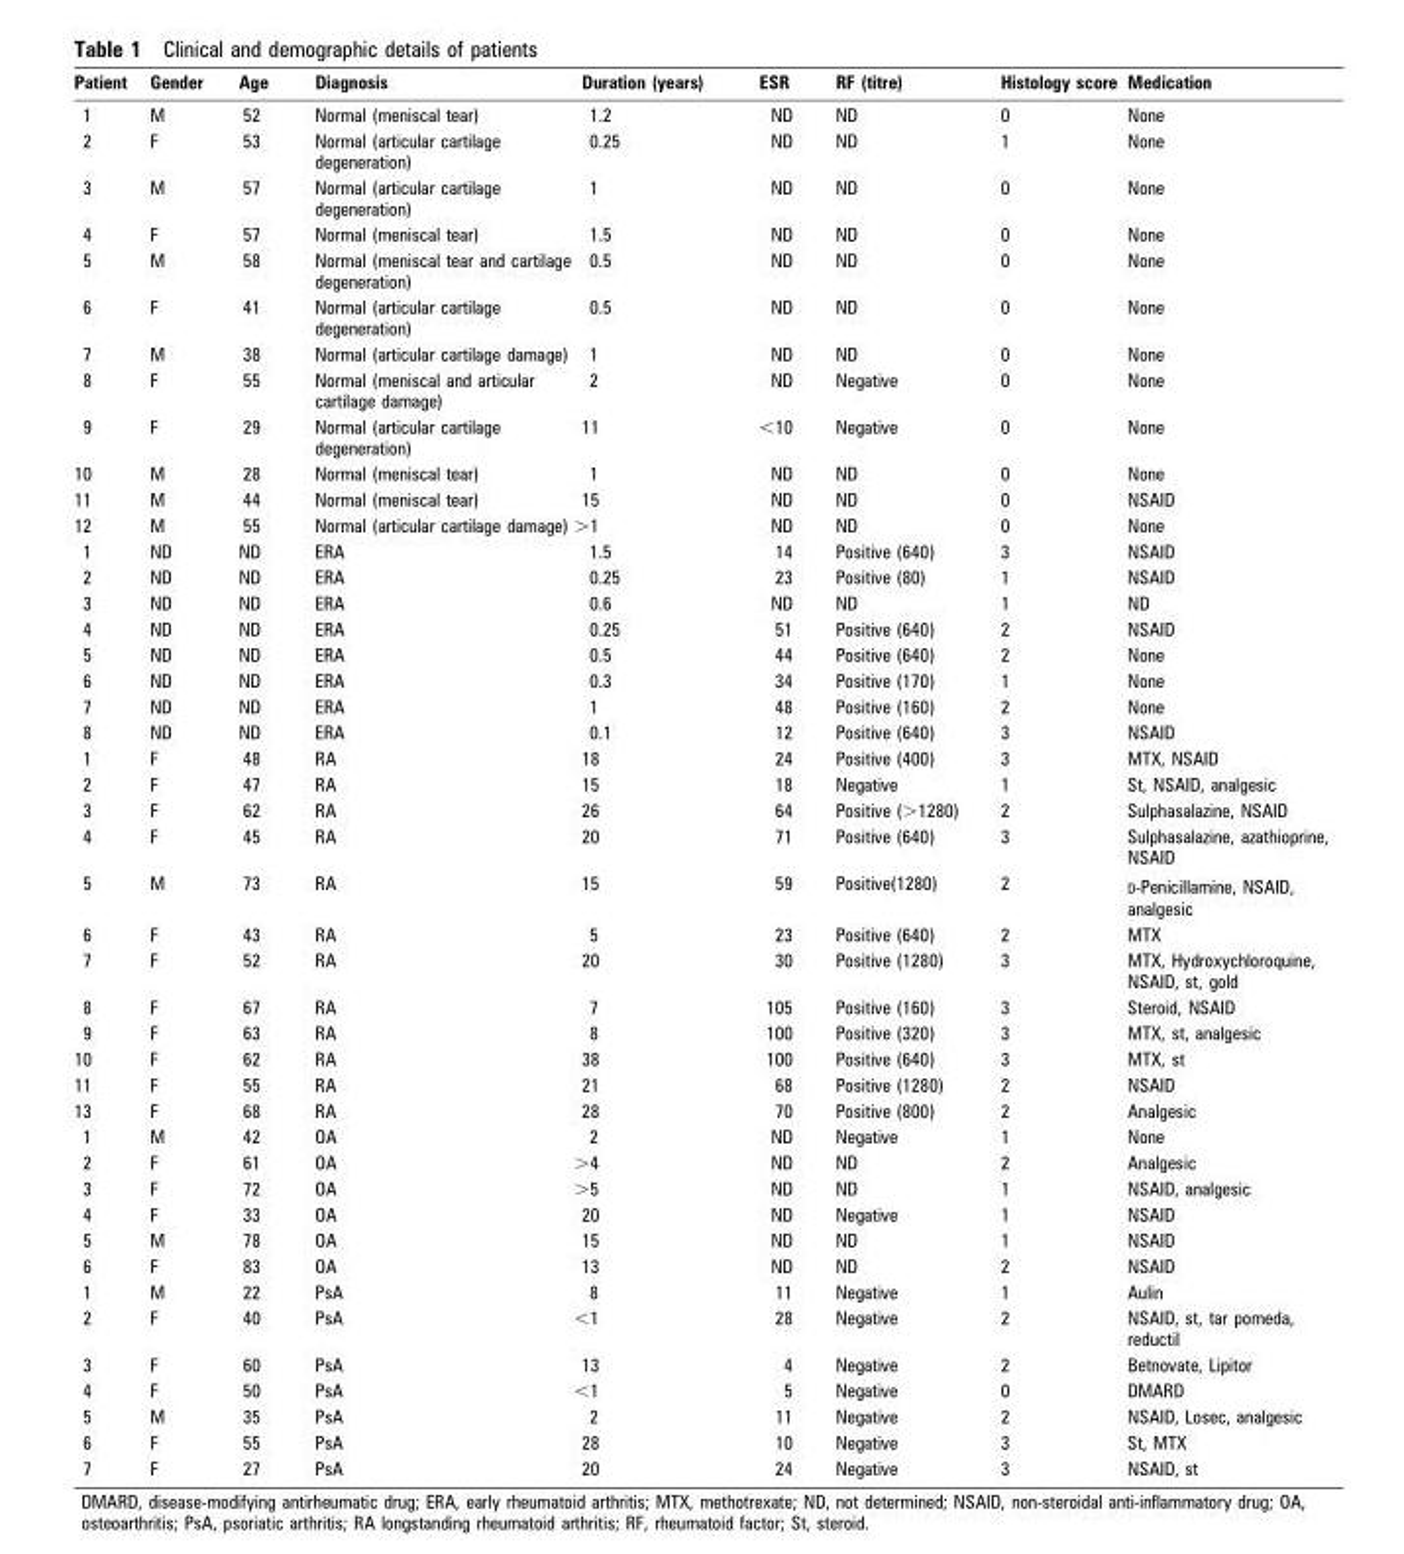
<table><thead><tr><td>Patient</td><td>Gender</td><td>Age</td><td>Diagnosis</td><td>Duration (years)</td><td>ESR</td><td>RF (titre)</td><td>Histology score</td><td>Medication</td></tr></thead><tbody><tr><td>1</td><td>M</td><td>52</td><td>Normal (meniscal tear)</td><td>1.2</td><td>ND</td><td>ND</td><td>0</td><td>None</td></tr><tr><td>2</td><td>F</td><td>53</td><td>Normal (articular cartilage degeneration)</td><td>0.25</td><td>ND</td><td>ND</td><td>1</td><td>None</td></tr><tr><td>3</td><td>M</td><td>57</td><td>Normal (articular cartilage degeneration)</td><td>1</td><td>ND</td><td>ND</td><td>0</td><td>None</td></tr><tr><td>4</td><td>F</td><td>57</td><td>Normal (meniscal tear)</td><td>1.5</td><td>ND</td><td>ND</td><td>0</td><td>None</td></tr><tr><td>5</td><td>M</td><td>58</td><td>Normal (meniscal tear and cartilage degeneration)</td><td>0.5</td><td>ND</td><td>ND</td><td>0</td><td>None</td></tr><tr><td>6</td><td>F</td><td>41</td><td>Normal (articular cartilage degeneration)</td><td>0.5</td><td>ND</td><td>ND</td><td>0</td><td>None</td></tr><tr><td>7</td><td>M</td><td>38</td><td>Normal (articular cartilage damage)</td><td>1</td><td>ND</td><td>ND</td><td>0</td><td>None</td></tr><tr><td>8</td><td>F</td><td>55</td><td>Normal (meniscal and articular cartilage damage)</td><td>2</td><td>ND</td><td>Negative</td><td>0</td><td>None</td></tr><tr><td>9</td><td>F</td><td>29</td><td>Normal (articular cartilage degeneration)</td><td>11</td><td>&lt;10</td><td>Negative</td><td>0</td><td>None</td></tr><tr><td>10</td><td>M</td><td>28</td><td>Normal (meniscal tear)</td><td>1</td><td>ND</td><td>ND</td><td>0</td><td>None</td></tr><tr><td>11</td><td>M</td><td>44</td><td>Normal (meniscal tear)</td><td>15</td><td>ND</td><td>ND</td><td>0</td><td>NSAID</td></tr><tr><td>12</td><td>M</td><td>55</td><td>Normal (articular cartilage damage)</td><td>&gt;1</td><td>ND</td><td>ND</td><td>0</td><td>None</td></tr><tr><td>1</td><td>ND</td><td>ND</td><td>ERA</td><td>1.5</td><td>14</td><td>Positive (640)</td><td>3</td><td>NSAID</td></tr><tr><td>2</td><td>ND</td><td>ND</td><td>ERA</td><td>0.25</td><td>23</td><td>Positive (80)</td><td>1</td><td>NSAID</td></tr><tr><td>3</td><td>ND</td><td>ND</td><td>ERA</td><td>0.6</td><td>ND</td><td>ND</td><td>1</td><td>ND</td></tr><tr><td>4</td><td>ND</td><td>ND</td><td>ERA</td><td>0.25</td><td>51</td><td>Positive (640)</td><td>2</td><td>NSAID</td></tr><tr><td>5</td><td>ND</td><td>ND</td><td>ERA</td><td>0.5</td><td>44</td><td>Positive (640)</td><td>2</td><td>None</td></tr><tr><td>6</td><td>ND</td><td>ND</td><td>ERA</td><td>0.3</td><td>34</td><td>Positive (170)</td><td>1</td><td>None</td></tr><tr><td>7</td><td>ND</td><td>ND</td><td>ERA</td><td>1</td><td>48</td><td>Positive (160)</td><td>2</td><td>None</td></tr><tr><td>8</td><td>ND</td><td>ND</td><td>ERA</td><td>0.1</td><td>12</td><td>Positive (640)</td><td>3</td><td>NSAID</td></tr><tr><td>1</td><td>F</td><td>48</td><td>RA</td><td>18</td><td>24</td><td>Positive (400)</td><td>3</td><td>MTX, NSAID</td></tr><tr><td>2</td><td>F</td><td>47</td><td>RA</td><td>15</td><td>18</td><td>Negative</td><td>1</td><td>St, NSAID, analgesic</td></tr><tr><td>3</td><td>F</td><td>62</td><td>RA</td><td>26</td><td>64</td><td>Positive (&gt;1280)</td><td>2</td><td>Sulphasalazine, NSAID</td></tr><tr><td>4</td><td>F</td><td>45</td><td>RA</td><td>20</td><td>71</td><td>Positive (640)</td><td>3</td><td>Sulphasalazine, azathioprine, NSAID</td></tr><tr><td>5</td><td>M</td><td>73</td><td>RA</td><td>15</td><td>59</td><td>Positive(1280)</td><td>2</td><td>D-Penicillamine, NSAID, analgesic</td></tr><tr><td>6</td><td>F</td><td>43</td><td>RA</td><td>5</td><td>23</td><td>Positive (640)</td><td>2</td><td>MTX</td></tr><tr><td>7</td><td>F</td><td>52</td><td>RA</td><td>20</td><td>30</td><td>Positive (1280)</td><td>3</td><td>MTX, Hydroxychloroquine, NSAID, st, gold</td></tr><tr><td>8</td><td>F</td><td>67</td><td>RA</td><td>7</td><td>105</td><td>Positive (160)</td><td>3</td><td>Steroid, NSAID</td></tr><tr><td>9</td><td>F</td><td>63</td><td>RA</td><td>8</td><td>100</td><td>Positive (320)</td><td>3</td><td>MTX, st, analgesic</td></tr><tr><td>10</td><td>F</td><td>62</td><td>RA</td><td>38</td><td>100</td><td>Positive (640)</td><td>3</td><td>MTX, st</td></tr><tr><td>11</td><td>F</td><td>55</td><td>RA</td><td>21</td><td>68</td><td>Positive (1280)</td><td>2</td><td>NSAID</td></tr><tr><td>13</td><td>F</td><td>68</td><td>RA</td><td>28</td><td>70</td><td>Positive (800)</td><td>2</td><td>Analgesic</td></tr><tr><td>1</td><td>M</td><td>42</td><td>OA</td><td>2</td><td>ND</td><td>Negative</td><td>1</td><td>None</td></tr><tr><td>2</td><td>F</td><td>61</td><td>OA</td><td>&gt;4</td><td>ND</td><td>ND</td><td>2</td><td>Analgesic</td></tr><tr><td>3</td><td>F</td><td>72</td><td>OA</td><td>&gt;5</td><td>ND</td><td>ND</td><td>1</td><td>NSAID, analgesic</td></tr><tr><td>4</td><td>F</td><td>33</td><td>OA</td><td>20</td><td>ND</td><td>Negative</td><td>1</td><td>NSAID</td></tr><tr><td>5</td><td>M</td><td>78</td><td>OA</td><td>15</td><td>ND</td><td>ND</td><td>1</td><td>NSAID</td></tr><tr><td>6</td><td>F</td><td>83</td><td>OA</td><td>13</td><td>ND</td><td>ND</td><td>2</td><td>NSAID</td></tr><tr><td>1</td><td>M</td><td>22</td><td>PsA</td><td>8</td><td>11</td><td>Negative</td><td>1</td><td>Aulin</td></tr><tr><td>2</td><td>F</td><td>40</td><td>PsA</td><td>&lt;1</td><td>28</td><td>Negative</td><td>2</td><td>NSAID, st, tar pomeda, reductil</td></tr><tr><td>3</td><td>F</td><td>60</td><td>PsA</td><td>13</td><td>4</td><td>Negative</td><td>2</td><td>Betnovate, Lipitor</td></tr><tr><td>4</td><td>F</td><td>50</td><td>PsA</td><td>&lt;1</td><td>5</td><td>Negative</td><td>0</td><td>DMARD</td></tr><tr><td>5</td><td>M</td><td>35</td><td>PsA</td><td>2</td><td>11</td><td>Negative</td><td>2</td><td>NSAID, Losec, analgesic</td></tr><tr><td>6</td><td>F</td><td>55</td><td>PsA</td><td>28</td><td>10</td><td>Negative</td><td>3</td><td>St, MTX</td></tr><tr><td>7</td><td>F</td><td>27</td><td>PsA</td><td>20</td><td>24</td><td>Negative</td><td>3</td><td>NSAID, st</td></tr></tbody></table>